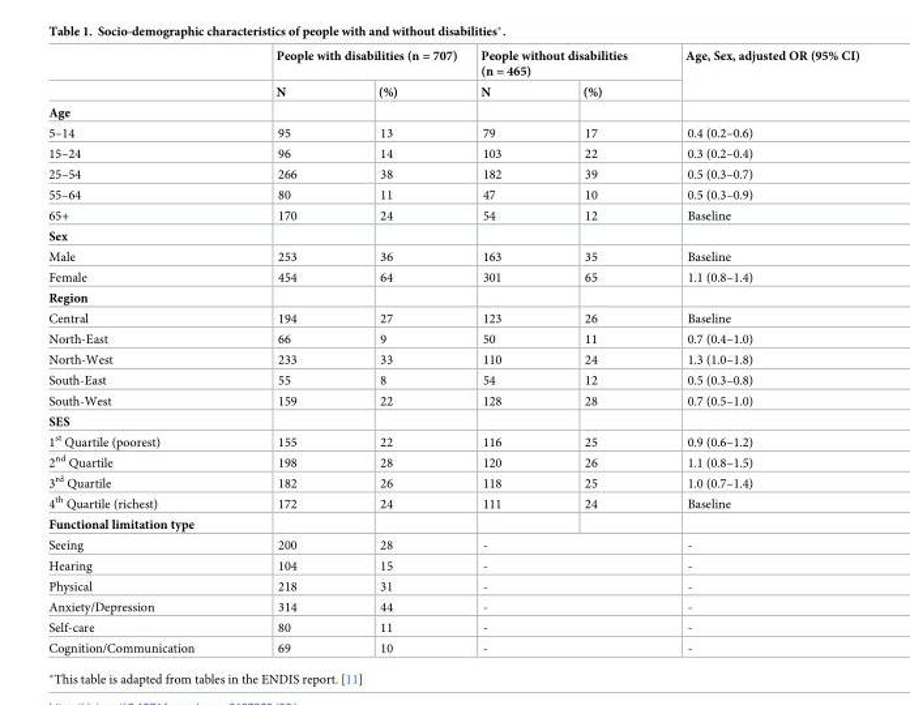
<table><thead><tr><td rowspan="2"></td><td colspan="2">People with disabilities (n = 707)</td><td colspan="2">People without disabilities (n = 465)</td><td rowspan="2">Age, Sex, adjusted OR (95% CI)</td></tr><tr><td>N</td><td>(%)</td><td>N</td><td>(%)</td></tr></thead><tbody><tr><td colspan="6">Age</td></tr><tr><td>5–14</td><td>95</td><td>13</td><td>79</td><td>17</td><td>0.4 (0.2–0.6)</td></tr><tr><td>15–24</td><td>96</td><td>14</td><td>103</td><td>22</td><td>0.3 (0.2–0.4)</td></tr><tr><td>25–54</td><td>266</td><td>38</td><td>182</td><td>39</td><td>0.5 (0.3–0.7)</td></tr><tr><td>55–64</td><td>80</td><td>11</td><td>47</td><td>10</td><td>0.5 (0.3–0.9)</td></tr><tr><td>65+</td><td>170</td><td>24</td><td>54</td><td>12</td><td>Baseline</td></tr><tr><td colspan="6">Sex</td></tr><tr><td>Male</td><td>253</td><td>36</td><td>163</td><td>35</td><td>Baseline</td></tr><tr><td>Female</td><td>454</td><td>64</td><td>301</td><td>65</td><td>1.1 (0.8–1.4)</td></tr><tr><td colspan="6">Region</td></tr><tr><td>Central</td><td>194</td><td>27</td><td>123</td><td>26</td><td>Baseline</td></tr><tr><td>North-East</td><td>66</td><td>9</td><td>50</td><td>11</td><td>0.7 (0.4–1.0)</td></tr><tr><td>North-West</td><td>233</td><td>33</td><td>110</td><td>24</td><td>1.3 (1.0–1.8)</td></tr><tr><td>South-East</td><td>55</td><td>8</td><td>54</td><td>12</td><td>0.5 (0.3–0.8)</td></tr><tr><td>South-West</td><td>159</td><td>22</td><td>128</td><td>28</td><td>0.7 (0.5–1.0)</td></tr><tr><td colspan="6">SES</td></tr><tr><td>1<sup>st</sup> Quartile (poorest)</td><td>155</td><td>22</td><td>116</td><td>25</td><td>0.9 (0.6–1.2)</td></tr><tr><td>2<sup>nd</sup> Quartile</td><td>198</td><td>28</td><td>120</td><td>26</td><td>1.1 (0.8–1.5)</td></tr><tr><td>3<sup>rd</sup> Quartile</td><td>182</td><td>26</td><td>118</td><td>25</td><td>1.0 (0.7–1.4)</td></tr><tr><td>4<sup>th</sup> Quartile (richest)</td><td>172</td><td>24</td><td>111</td><td>24</td><td>Baseline</td></tr><tr><td colspan="6">Functional limitation type</td></tr><tr><td>Seeing</td><td>200</td><td>28</td><td colspan="2">-</td><td>-</td></tr><tr><td>Hearing</td><td>104</td><td>15</td><td colspan="2">-</td><td>-</td></tr><tr><td>Physical</td><td>218</td><td>31</td><td colspan="2">-</td><td>-</td></tr><tr><td>Anxiety/Depression</td><td>314</td><td>44</td><td colspan="2">-</td><td>-</td></tr><tr><td>Self-care</td><td>80</td><td>11</td><td colspan="2">-</td><td>-</td></tr><tr><td>Cognition/Communication</td><td>69</td><td>10</td><td colspan="2">-</td><td>-</td></tr></tbody></table>